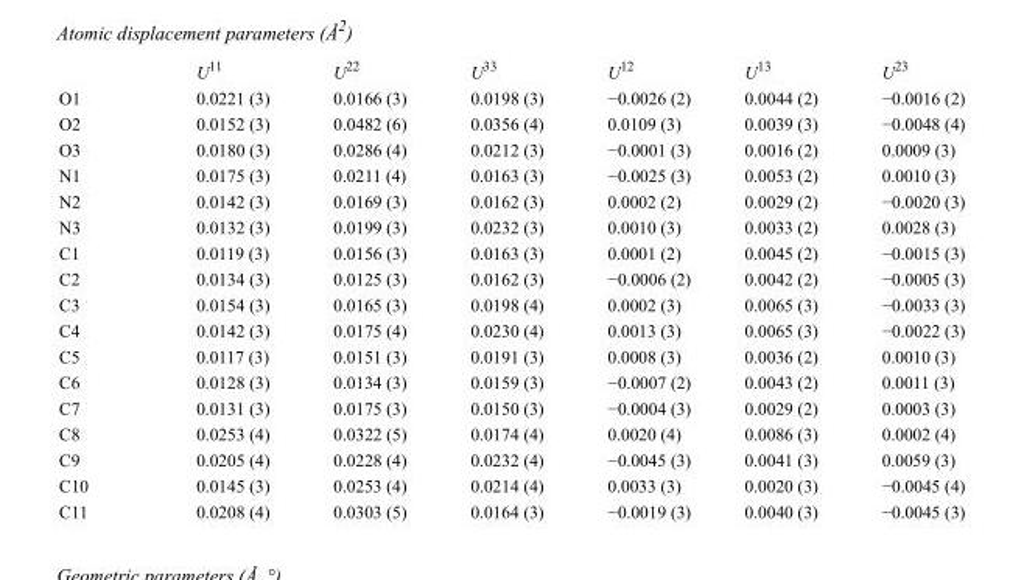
<table><thead><tr><td></td><td>U<sup>11</sup></td><td>U<sup>22</sup></td><td>U<sup>33</sup></td><td>U<sup>12</sup></td><td>U<sup>13</sup></td><td>U<sup>23</sup></td></tr></thead><tbody><tr><td>O1</td><td>0.0221 (3)</td><td>0.0166 (3)</td><td>0.0198 (3)</td><td>−0.0026 (2)</td><td>0.0044 (2)</td><td>−0.0016 (2)</td></tr><tr><td>O2</td><td>0.0152 (3)</td><td>0.0482 (6)</td><td>0.0356 (4)</td><td>0.0109 (3)</td><td>0.0039 (3)</td><td>−0.0048 (4)</td></tr><tr><td>O3</td><td>0.0180 (3)</td><td>0.0286 (4)</td><td>0.0212 (3)</td><td>−0.0001 (3)</td><td>0.0016 (2)</td><td>0.0009 (3)</td></tr><tr><td>N1</td><td>0.0175 (3)</td><td>0.0211 (4)</td><td>0.0163 (3)</td><td>−0.0025 (3)</td><td>0.0053 (2)</td><td>0.0010 (3)</td></tr><tr><td>N2</td><td>0.0142 (3)</td><td>0.0169 (3)</td><td>0.0162 (3)</td><td>0.0002 (2)</td><td>0.0029 (2)</td><td>−0.0020 (3)</td></tr><tr><td>N3</td><td>0.0132 (3)</td><td>0.0199 (3)</td><td>0.0232 (3)</td><td>0.0010 (3)</td><td>0.0033 (2)</td><td>0.0028 (3)</td></tr><tr><td>C1</td><td>0.0119 (3)</td><td>0.0156 (3)</td><td>0.0163 (3)</td><td>0.0001 (2)</td><td>0.0045 (2)</td><td>−0.0015 (3)</td></tr><tr><td>C2</td><td>0.0134 (3)</td><td>0.0125 (3)</td><td>0.0162 (3)</td><td>−0.0006 (2)</td><td>0.0042 (2)</td><td>−0.0005 (3)</td></tr><tr><td>C3</td><td>0.0154 (3)</td><td>0.0165 (3)</td><td>0.0198 (4)</td><td>0.0002 (3)</td><td>0.0065 (3)</td><td>−0.0033 (3)</td></tr><tr><td>C4</td><td>0.0142 (3)</td><td>0.0175 (4)</td><td>0.0230 (4)</td><td>0.0013 (3)</td><td>0.0065 (3)</td><td>−0.0022 (3)</td></tr><tr><td>C5</td><td>0.0117 (3)</td><td>0.0151 (3)</td><td>0.0191 (3)</td><td>0.0008 (3)</td><td>0.0036 (2)</td><td>0.0010 (3)</td></tr><tr><td>C6</td><td>0.0128 (3)</td><td>0.0134 (3)</td><td>0.0159 (3)</td><td>−0.0007 (2)</td><td>0.0043 (2)</td><td>0.0011 (3)</td></tr><tr><td>C7</td><td>0.0131 (3)</td><td>0.0175 (3)</td><td>0.0150 (3)</td><td>−0.0004 (3)</td><td>0.0029 (2)</td><td>0.0003 (3)</td></tr><tr><td>C8</td><td>0.0253 (4)</td><td>0.0322 (5)</td><td>0.0174 (4)</td><td>0.0020 (4)</td><td>0.0086 (3)</td><td>0.0002 (4)</td></tr><tr><td>C9</td><td>0.0205 (4)</td><td>0.0228 (4)</td><td>0.0232 (4)</td><td>−0.0045 (3)</td><td>0.0041 (3)</td><td>0.0059 (3)</td></tr><tr><td>C10</td><td>0.0145 (3)</td><td>0.0253 (4)</td><td>0.0214 (4)</td><td>0.0033 (3)</td><td>0.0020 (3)</td><td>−0.0045 (4)</td></tr><tr><td>C11</td><td>0.0208 (4)</td><td>0.0303 (5)</td><td>0.0164 (3)</td><td>−0.0019 (3)</td><td>0.0040 (3)</td><td>−0.0045 (3)</td></tr></tbody></table>